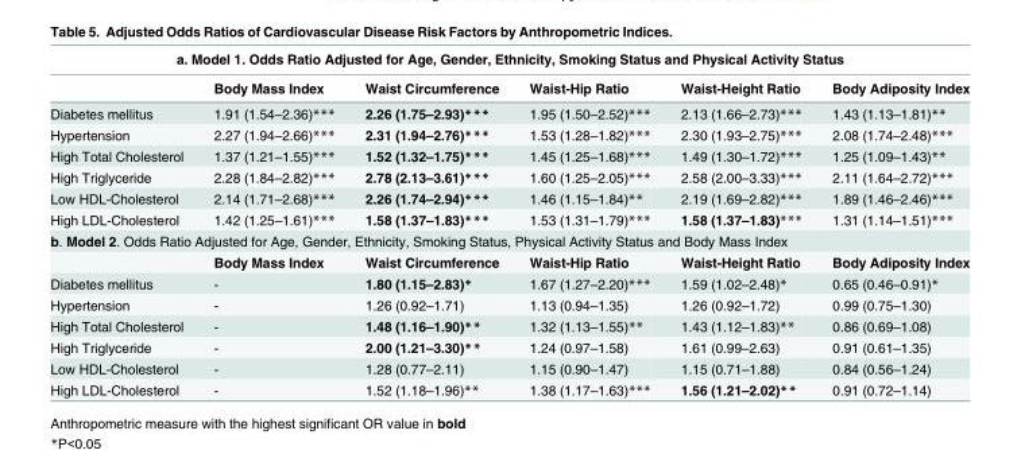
<table><thead><tr><td colspan="6">a. Model 1. Odds Ratio Adjusted for Age, Gender, Ethnicity, Smoking Status and Physical Activity Status</td></tr><tr><td></td><td>Body Mass Index</td><td>Waist Circumference</td><td>Waist-Hip Ratio</td><td>Waist-Height Ratio</td><td>Body Adiposity Index</td></tr></thead><tbody><tr><td>Diabetes mellitus</td><td>1.91 (1.54–2.36)***</td><td>2.26 (1.75–2.93)***</td><td>1.95 (1.50–2.52)***</td><td>2.13 (1.66–2.73)***</td><td>1.43 (1.13–1.81)**</td></tr><tr><td>Hypertension</td><td>2.27 (1.94–2.66)***</td><td>2.31 (1.94–2.76)***</td><td>1.53 (1.28–1.82)***</td><td>2.30 (1.93–2.75)***</td><td>2.08 (1.74–2.48)***</td></tr><tr><td>High Total Cholesterol</td><td>1.37 (1.21–1.55)***</td><td>1.52 (1.32–1.75)***</td><td>1.45 (1.25–1.68)***</td><td>1.49 (1.30–1.72)***</td><td>1.25 (1.09–1.43)**</td></tr><tr><td>High Triglyceride</td><td>2.28 (1.84–2.82)***</td><td>2.78 (2.13–3.61)***</td><td>1.60 (1.25–2.05)***</td><td>2.58 (2.00–3.33)***</td><td>2.11 (1.64–2.72)***</td></tr><tr><td>Low HDL-Cholesterol</td><td>2.14 (1.71–2.68)***</td><td>2.26 (1.74–2.94)***</td><td>1.46 (1.15–1.84)**</td><td>2.19 (1.69–2.82)***</td><td>1.89 (1.46–2.46)***</td></tr><tr><td>High LDL-Cholesterol</td><td>1.42 (1.25–1.61)***</td><td>1.58 (1.37–1.83)***</td><td>1.53 (1.31–1.79)***</td><td>1.58 (1.37–1.83)***</td><td>1.31 (1.14–1.51)***</td></tr><tr><td colspan="6">b. Model 2. Odds Ratio Adjusted for Age, Gender, Ethnicity, Smoking Status, Physical Activity Status and Body Mass Index</td></tr><tr><td></td><td>Body Mass Index</td><td>Waist Circumference</td><td>Waist-Hip Ratio</td><td>Waist-Height Ratio</td><td>Body Adiposity Index</td></tr><tr><td>Diabetes mellitus</td><td>-</td><td>1.80 (1.15–2.83)*</td><td>1.67 (1.27–2.20)***</td><td>1.59 (1.02–2.48)*</td><td>0.65 (0.46–0.91)*</td></tr><tr><td>Hypertension</td><td>-</td><td>1.26 (0.92–1.71)</td><td>1.13 (0.94–1.35)</td><td>1.26 (0.92–1.72)</td><td>0.99 (0.75–1.30)</td></tr><tr><td>High Total Cholesterol</td><td>-</td><td>1.48 (1.16–1.90)**</td><td>1.32 (1.13–1.55)**</td><td>1.43 (1.12–1.83)**</td><td>0.86 (0.69–1.08)</td></tr><tr><td>High Triglyceride</td><td>-</td><td>2.00 (1.21–3.30)**</td><td>1.24 (0.97–1.58)</td><td>1.61 (0.99–2.63)</td><td>0.91 (0.61–1.35)</td></tr><tr><td>Low HDL-Cholesterol</td><td>-</td><td>1.28 (0.77–2.11)</td><td>1.15 (0.90–1.47)</td><td>1.15 (0.71–1.88)</td><td>0.84 (0.56–1.24)</td></tr><tr><td>High LDL-Cholesterol</td><td>-</td><td>1.52 (1.18–1.96)**</td><td>1.38 (1.17–1.63)***</td><td>1.56 (1.21–2.02)**</td><td>0.91 (0.72–1.14)</td></tr></tbody></table>